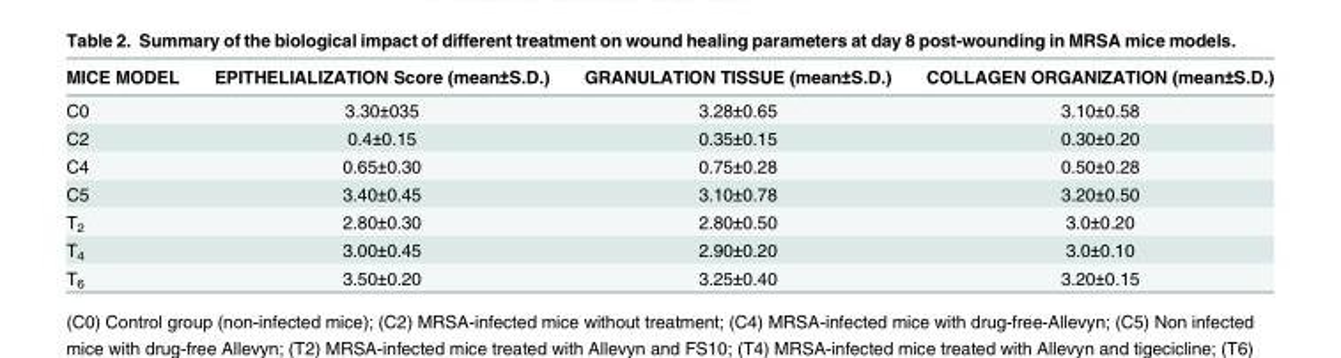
<table><thead><tr><td>MICE MODEL</td><td>EPITHELIALIZATION Score (mean±S.D.)</td><td>GRANULATION TISSUE (mean±S.D.)</td><td>COLLAGEN ORGANIZATION (mean±S.D.)</td></tr></thead><tbody><tr><td>C0</td><td>3.30±035</td><td>3.28±0.65</td><td>3.10±0.58</td></tr><tr><td>C2</td><td>0.4±0.15</td><td>0.35±0.15</td><td>0.30±0.20</td></tr><tr><td>C4</td><td>0.65±0.30</td><td>0.75±0.28</td><td>0.50±0.28</td></tr><tr><td>C5</td><td>3.40±0.45</td><td>3.10±0.78</td><td>3.20±0.50</td></tr><tr><td>T<sub>2</sub></td><td>2.80±0.30</td><td>2.80±0.50</td><td>3.0±0.20</td></tr><tr><td>T<sub>4</sub></td><td>3.00±0.45</td><td>2.90±0.20</td><td>3.0±0.10</td></tr><tr><td>T<sub>6</sub></td><td>3.50±0.20</td><td>3.25±0.40</td><td>3.20±0.15</td></tr></tbody></table>